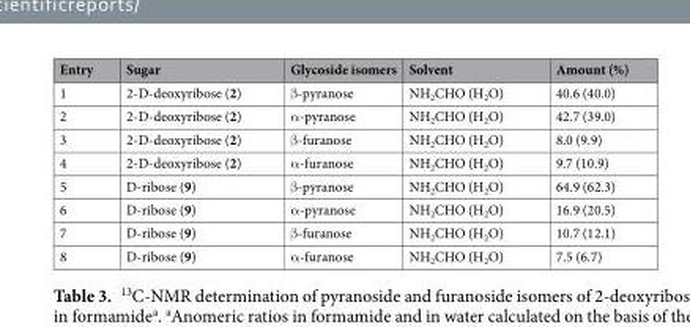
<table><thead><tr><td>Entry</td><td>Sugar</td><td>Glycoside isomers</td><td>Solvent</td><td>Amount (%)</td></tr></thead><tbody><tr><td>1</td><td>2-D-deoxyribose (2)</td><td>β-pyranose</td><td>NH<sub>2</sub>CHO (H<sub>2</sub>O)</td><td>40.6 (40.0)</td></tr><tr><td>2</td><td>2-D-deoxyribose (2)</td><td>α-pyranose</td><td>NH<sub>2</sub>CHO (H<sub>2</sub>O)</td><td>42.7 (39.0)</td></tr><tr><td>3</td><td>2-D-deoxyribose (2)</td><td>β-furanose</td><td>NH<sub>2</sub>CHO (H<sub>2</sub>O)</td><td>8.0 (9.9)</td></tr><tr><td>4</td><td>2-D-deoxyribose (2)</td><td>α-furanose</td><td>NH<sub>2</sub>CHO (H<sub>2</sub>O)</td><td>9.7 (10.9)</td></tr><tr><td>5</td><td>D-ribose (9)</td><td>β-pyranose</td><td>NH<sub>2</sub>CHO (H<sub>2</sub>O)</td><td>64.9 (62.3)</td></tr><tr><td>6</td><td>D-ribose (9)</td><td>α-pyranose</td><td>NH<sub>2</sub>CHO (H<sub>2</sub>O)</td><td>16.9 (20.5)</td></tr><tr><td>7</td><td>D-ribose (9)</td><td>β-furanose</td><td>NH<sub>2</sub>CHO (H<sub>2</sub>O)</td><td>10.7 (12.1)</td></tr><tr><td>8</td><td>D-ribose (9)</td><td>α-furanose</td><td>NH<sub>2</sub>CHO (H<sub>2</sub>O)</td><td>7.5 (6.7)</td></tr></tbody></table>